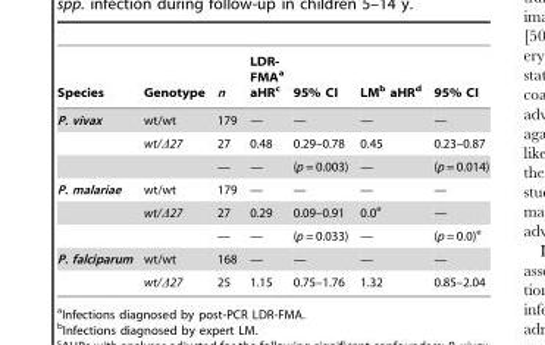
<table><thead><tr><td>Species</td><td>Genotype</td><td>n</td><td>LDR- FMA<sup>a</sup> aHR<sup>c</sup></td><td>95% CI</td><td>LM<sup>b</sup> aHR<sup>d</sup></td><td>95% CI</td></tr></thead><tbody><tr><td rowspan="3">P. vivax</td><td>wt/wt</td><td>179</td><td>—</td><td>—</td><td>—</td><td>—</td></tr><tr><td>wt/Δ27</td><td>27</td><td>0.48</td><td>0.29–0.78</td><td>0.45</td><td>0.23–0.87</td></tr><tr><td></td><td>—</td><td>—</td><td>(p = 0.003)</td><td>—</td><td>(p = 0.014)</td></tr><tr><td rowspan="3">P. malariae</td><td>wt/wt</td><td>179</td><td>—</td><td>—</td><td>—</td><td>—</td></tr><tr><td>wt/Δ27</td><td>27</td><td>0.29</td><td>0.09–0.91</td><td>0.0<sup>e</sup></td><td>—</td></tr><tr><td></td><td>—</td><td>—</td><td>(p = 0.033)</td><td>—</td><td>(p = 0.0)<sup>e</sup></td></tr><tr><td rowspan="2">P. falciparum</td><td>wt/wt</td><td>168</td><td>—</td><td>—</td><td>—</td><td>—</td></tr><tr><td>wt/Δ27</td><td>25</td><td>1.15</td><td>0.75–1.76</td><td>1.32</td><td>0.85–2.04</td></tr></tbody></table>